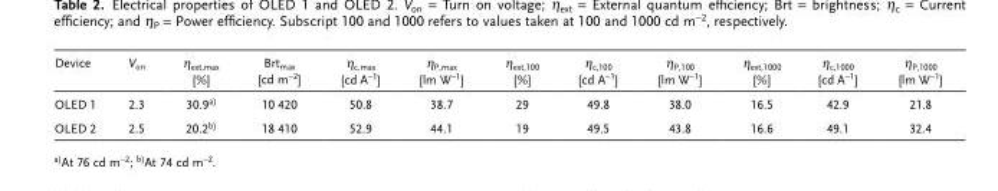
<table><thead><tr><td>Device</td><td>V<sub>on</sub></td><td>η<sub>ext,max</sub> [%]</td><td>Brt<sub>max</sub> [cd m<sup>−2</sup>]</td><td>η<sub>c,max</sub> [cd A<sup>−1</sup>]</td><td>η<sub>P,max</sub> [lm W<sup>−1</sup>]</td><td>η<sub>ext,100</sub> [%]</td><td>η<sub>c,100</sub> [cd A<sup>−1</sup>]</td><td>η<sub>P,100</sub> [lm W<sup>−1</sup>]</td><td>η<sub>ext,1000</sub> [%]</td><td>η<sub>c,1000</sub> [cd A<sup>−1</sup>]</td><td>η<sub>P,1000</sub> [lm W<sup>−1</sup>]</td></tr></thead><tbody><tr><td>OLED 1</td><td>2.3</td><td>30.9a)</td><td>10 420</td><td>50.8</td><td>38.7</td><td>29</td><td>49.8</td><td>38.0</td><td>16.5</td><td>42.9</td><td>21.8</td></tr><tr><td>OLED 2</td><td>2.5</td><td>20.2b)</td><td>18 410</td><td>52.9</td><td>44.1</td><td>19</td><td>49.5</td><td>43.8</td><td>16.6</td><td>49.1</td><td>32.4</td></tr></tbody></table>